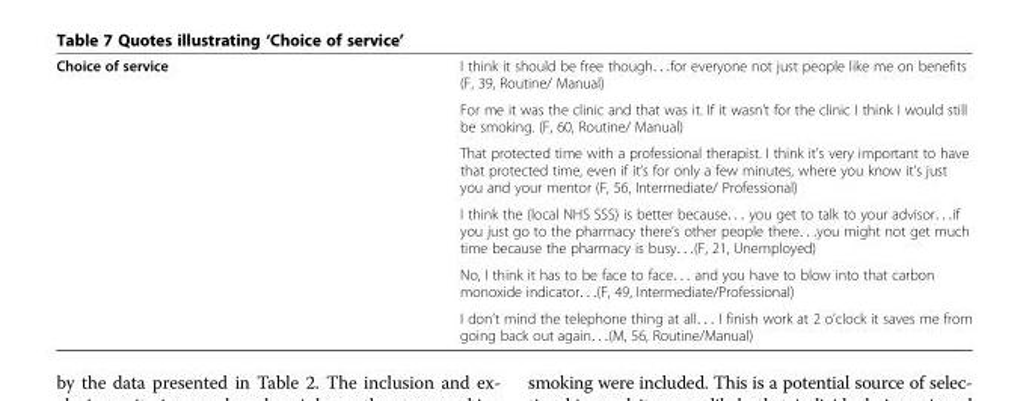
<table><tbody><tr><td rowspan="6">Choice of service</td><td>I think it should be free though. . .for everyone not just people like me on benefits (F, 39, Routine/ Manual)</td></tr><tr><td>For me it was the clinic and that was it. If it wasn’t for the clinic I think I would still be smoking. (F, 60, Routine/ Manual)</td></tr><tr><td>That protected time with a professional therapist. I think it’s very important to have that protected time, even if it’s for only a few minutes, where you know it’s just you and your mentor (F, 56, Intermediate/ Professional)</td></tr><tr><td>I think the (local NHS SSS) is better because. . . you get to talk to your advisor. . .if you just go to the pharmacy there’s other people there. . .you might not get much time because the pharmacy is busy. . .(F, 21, Unemployed)</td></tr><tr><td>No, I think it has to be face to face. . . and you have to blow into that carbon monoxide indicator. . .(F, 49, Intermediate/Professional)</td></tr><tr><td>I don’t mind the telephone thing at all. . . I finish work at 2 o’clock it saves me from going back out again. . .(M, 56, Routine/Manual)</td></tr></tbody></table>